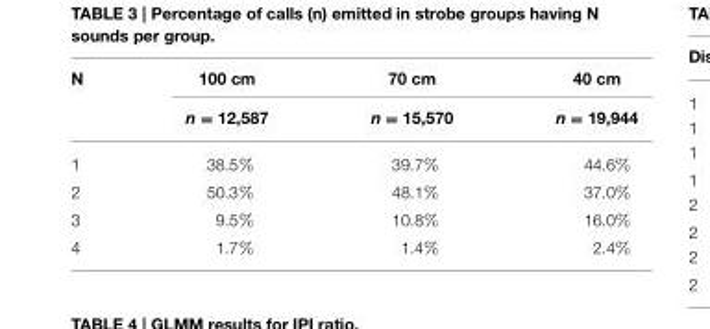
<table><thead><tr><td rowspan="2">N</td><td rowspan="2">100 cm n = 12,587</td><td rowspan="2">70 cm n = 15,570</td><td rowspan="2">40 cm n = 19,944</td></tr><tr></tr></thead><tbody><tr><td>1</td><td>38.5%</td><td>39.7%</td><td>44.6%</td></tr><tr><td>2</td><td>50.3%</td><td>48.1%</td><td>37.0%</td></tr><tr><td>3</td><td>9.5%</td><td>10.8%</td><td>16.0%</td></tr><tr><td>4</td><td>1.7%</td><td>1.4%</td><td>2.4%</td></tr></tbody></table>